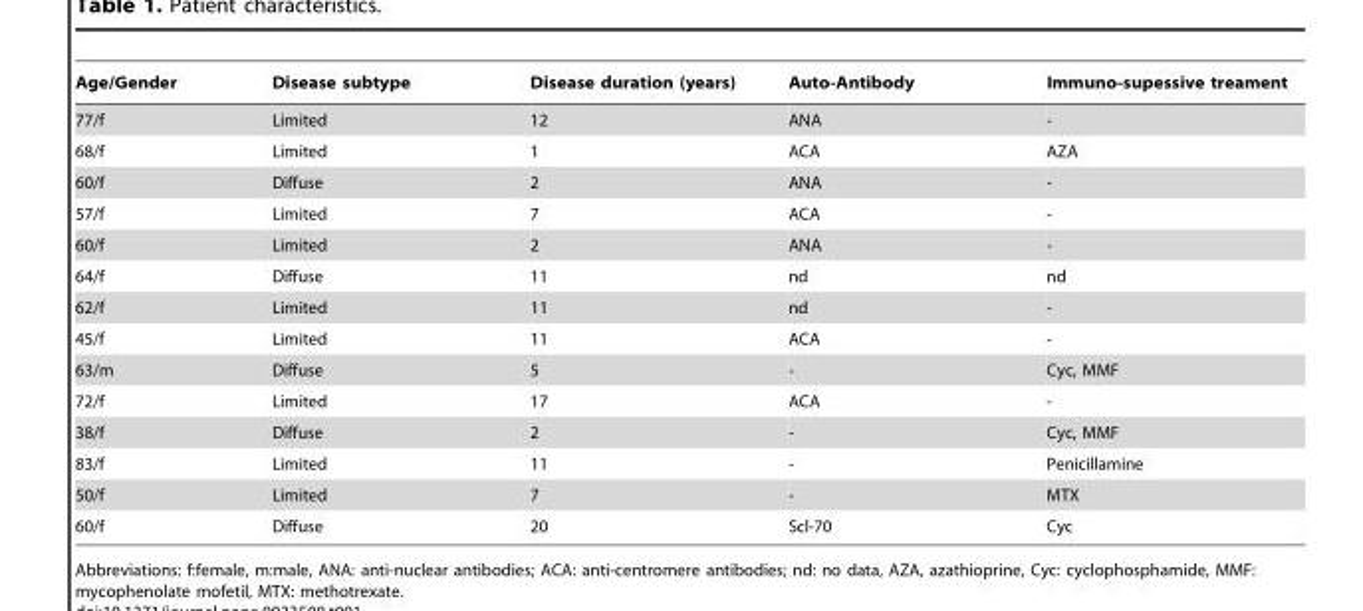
<table><thead><tr><td>Age/Gender</td><td>Disease subtype</td><td>Disease duration (years)</td><td>Auto-Antibody</td><td>Immuno-supessive treament</td></tr></thead><tbody><tr><td>77/f</td><td>Limited</td><td>12</td><td>ANA</td><td>-</td></tr><tr><td>68/f</td><td>Limited</td><td>1</td><td>ACA</td><td>AZA</td></tr><tr><td>60/f</td><td>Diffuse</td><td>2</td><td>ANA</td><td>-</td></tr><tr><td>57/f</td><td>Limited</td><td>7</td><td>ACA</td><td>-</td></tr><tr><td>60/f</td><td>Limited</td><td>2</td><td>ANA</td><td>-</td></tr><tr><td>64/f</td><td>Diffuse</td><td>11</td><td>nd</td><td>nd</td></tr><tr><td>62/f</td><td>Limited</td><td>11</td><td>nd</td><td>-</td></tr><tr><td>45/f</td><td>Limited</td><td>11</td><td>ACA</td><td>-</td></tr><tr><td>63/m</td><td>Diffuse</td><td>5</td><td>-</td><td>Cyc, MMF</td></tr><tr><td>72/f</td><td>Limited</td><td>17</td><td>ACA</td><td>-</td></tr><tr><td>38/f</td><td>Diffuse</td><td>2</td><td>-</td><td>Cyc, MMF</td></tr><tr><td>83/f</td><td>Limited</td><td>11</td><td>-</td><td>Penicillamine</td></tr><tr><td>50/f</td><td>Limited</td><td>7</td><td>-</td><td>MTX</td></tr><tr><td>60/f</td><td>Diffuse</td><td>20</td><td>Scl-70</td><td>Cyc</td></tr></tbody></table>